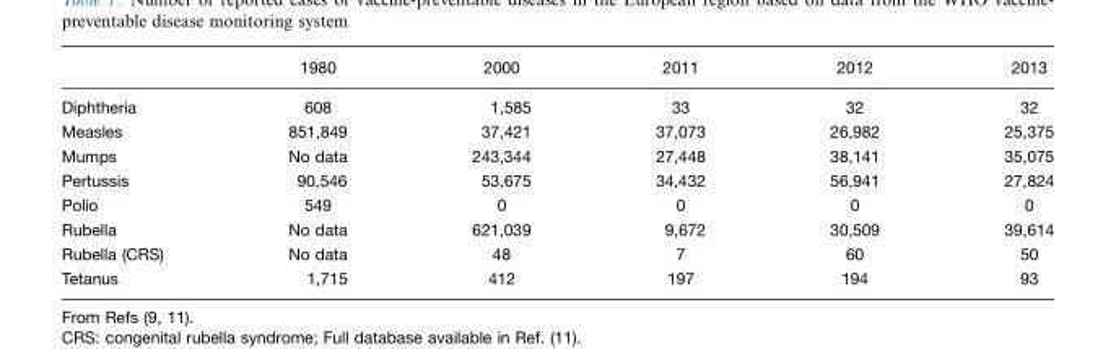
<table><thead><tr><td></td><td>1980</td><td>2000</td><td>2011</td><td>2012</td><td>2013</td></tr></thead><tbody><tr><td>Diphtheria</td><td>608</td><td>1,585</td><td>33</td><td>32</td><td>32</td></tr><tr><td>Measles</td><td>851,849</td><td>37,421</td><td>37,073</td><td>26,982</td><td>25,375</td></tr><tr><td>Mumps</td><td>No data</td><td>243,344</td><td>27,448</td><td>38,141</td><td>35,075</td></tr><tr><td>Pertussis</td><td>90,546</td><td>53,675</td><td>34,432</td><td>56,941</td><td>27,824</td></tr><tr><td>Polio</td><td>549</td><td>0</td><td>0</td><td>0</td><td>0</td></tr><tr><td>Rubella</td><td>No data</td><td>621,039</td><td>9,672</td><td>30,509</td><td>39,614</td></tr><tr><td>Rubella (CRS)</td><td>No data</td><td>48</td><td>7</td><td>60</td><td>50</td></tr><tr><td>Tetanus</td><td>1,715</td><td>412</td><td>197</td><td>194</td><td>93</td></tr></tbody></table>